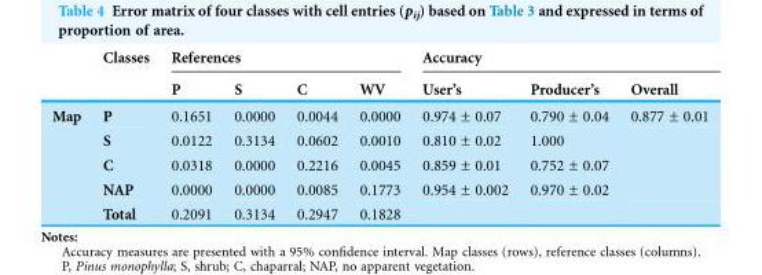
<table><thead><tr><td rowspan="2"></td><td rowspan="2">Classes</td><td colspan="4">References</td><td colspan="3">Accuracy</td></tr><tr><td>P</td><td>S</td><td>C</td><td>WV</td><td>User’s</td><td>Producer’s</td><td>Overall</td></tr></thead><tbody><tr><td rowspan="5">Map</td><td>P</td><td>0.1651</td><td>0.0000</td><td>0.0044</td><td>0.0000</td><td>0.974 ± 0.07</td><td>0.790 ± 0.04</td><td>0.877 ± 0.01</td></tr><tr><td>S</td><td>0.0122</td><td>0.3134</td><td>0.0602</td><td>0.0010</td><td>0.810 ± 0.02</td><td>1.000</td><td></td></tr><tr><td>C</td><td>0.0318</td><td>0.0000</td><td>0.2216</td><td>0.0045</td><td>0.859 ± 0.01</td><td>0.752 ± 0.07</td><td></td></tr><tr><td>NAP</td><td>0.0000</td><td>0.0000</td><td>0.0085</td><td>0.1773</td><td>0.954 ± 0.002</td><td>0.970 ± 0.02</td><td></td></tr><tr><td>Total</td><td>0.2091</td><td>0.3134</td><td>0.2947</td><td>0.1828</td><td></td><td></td><td></td></tr></tbody></table>